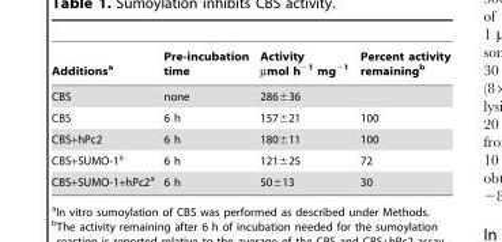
<table><thead><tr><td>Additions<sup>a</sup></td><td>Pre-incubation time</td><td>Activity µmol h<sup>−1</sup> mg<sup>−1</sup></td><td>Percent activity remaining<sup>b</sup></td></tr></thead><tbody><tr><td>CBS</td><td>none</td><td>286±36</td><td></td></tr><tr><td>CBS</td><td>6 h</td><td>157±21</td><td>100</td></tr><tr><td>CBS+hPc2</td><td>6 h</td><td>180±11</td><td>100</td></tr><tr><td>CBS+SUMO-1<sup>a</sup></td><td>6 h</td><td>121±25</td><td>72</td></tr><tr><td>CBS+SUMO-1+hPc2<sup>a</sup></td><td>6 h</td><td>50±13</td><td>30</td></tr></tbody></table>